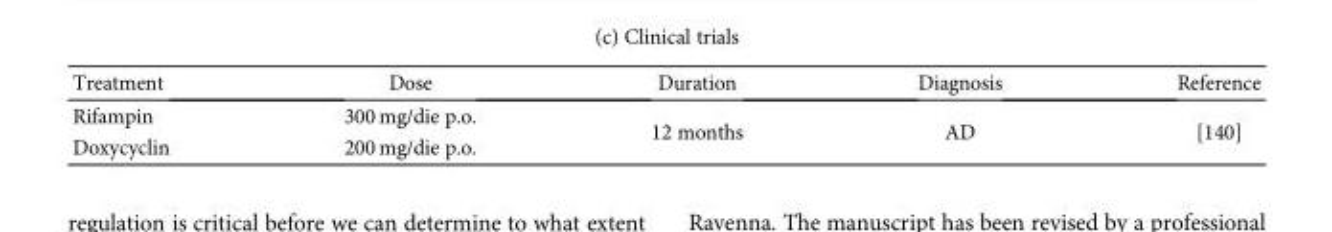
<table><thead><tr><td>Treatment</td><td>Dose</td><td>Duration</td><td>Diagnosis</td><td>Reference</td></tr></thead><tbody><tr><td>Rifampin</td><td>300 mg/die p.o.</td><td rowspan="2">12 months</td><td rowspan="2">AD</td><td rowspan="2">[140]</td></tr><tr><td>Doxycyclin</td><td>200 mg/die p.o.</td></tr></tbody></table>